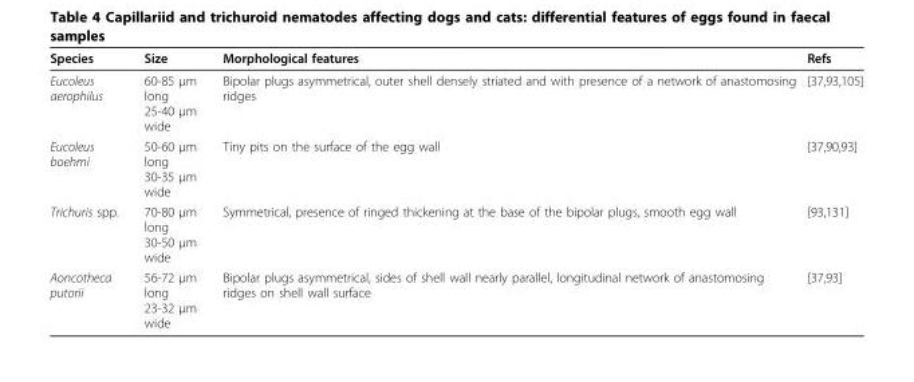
<table><thead><tr><td>Species</td><td>Size</td><td>Morphological features</td><td>Refs</td></tr></thead><tbody><tr><td>Eucoleus aerophilus</td><td>60-85 μm long 25-40 μm wide</td><td>Bipolar plugs asymmetrical, outer shell densely striated and with presence of a network of anastomosing ridges</td><td>[37,93,105]</td></tr><tr><td>Eucoleus boehmi</td><td>50-60 μm long 30-35 μm wide</td><td>Tiny pits on the surface of the egg wall</td><td>[37,90,93]</td></tr><tr><td>Trichuris spp.</td><td>70-80 μm long 30-50 μm wide</td><td>Symmetrical, presence of ringed thickening at the base of the bipolar plugs, smooth egg wall</td><td>[93,131]</td></tr><tr><td>Aoncotheca putorii</td><td>56-72 μm long 23-32 μm wide</td><td>Bipolar plugs asymmetrical, sides of shell wall nearly parallel, longitudinal network of anastomosing ridges on shell wall surface</td><td>[37,93]</td></tr></tbody></table>